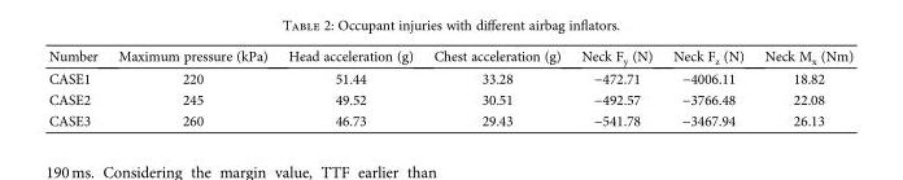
<table><thead><tr><td>Number</td><td>Maximum pressure (kPa)</td><td>Head acceleration (g)</td><td>Chest acceleration (g)</td><td>Neck F<sub>y</sub> (N)</td><td>Neck F<sub>z</sub> (N)</td><td>Neck M<sub>x</sub> (Nm)</td></tr></thead><tbody><tr><td>CASE1</td><td>220</td><td>51.44</td><td>33.28</td><td>−472.71</td><td>−4006.11</td><td>18.82</td></tr><tr><td>CASE2</td><td>245</td><td>49.52</td><td>30.51</td><td>−492.57</td><td>−3766.48</td><td>22.08</td></tr><tr><td>CASE3</td><td>260</td><td>46.73</td><td>29.43</td><td>−541.78</td><td>−3467.94</td><td>26.13</td></tr></tbody></table>